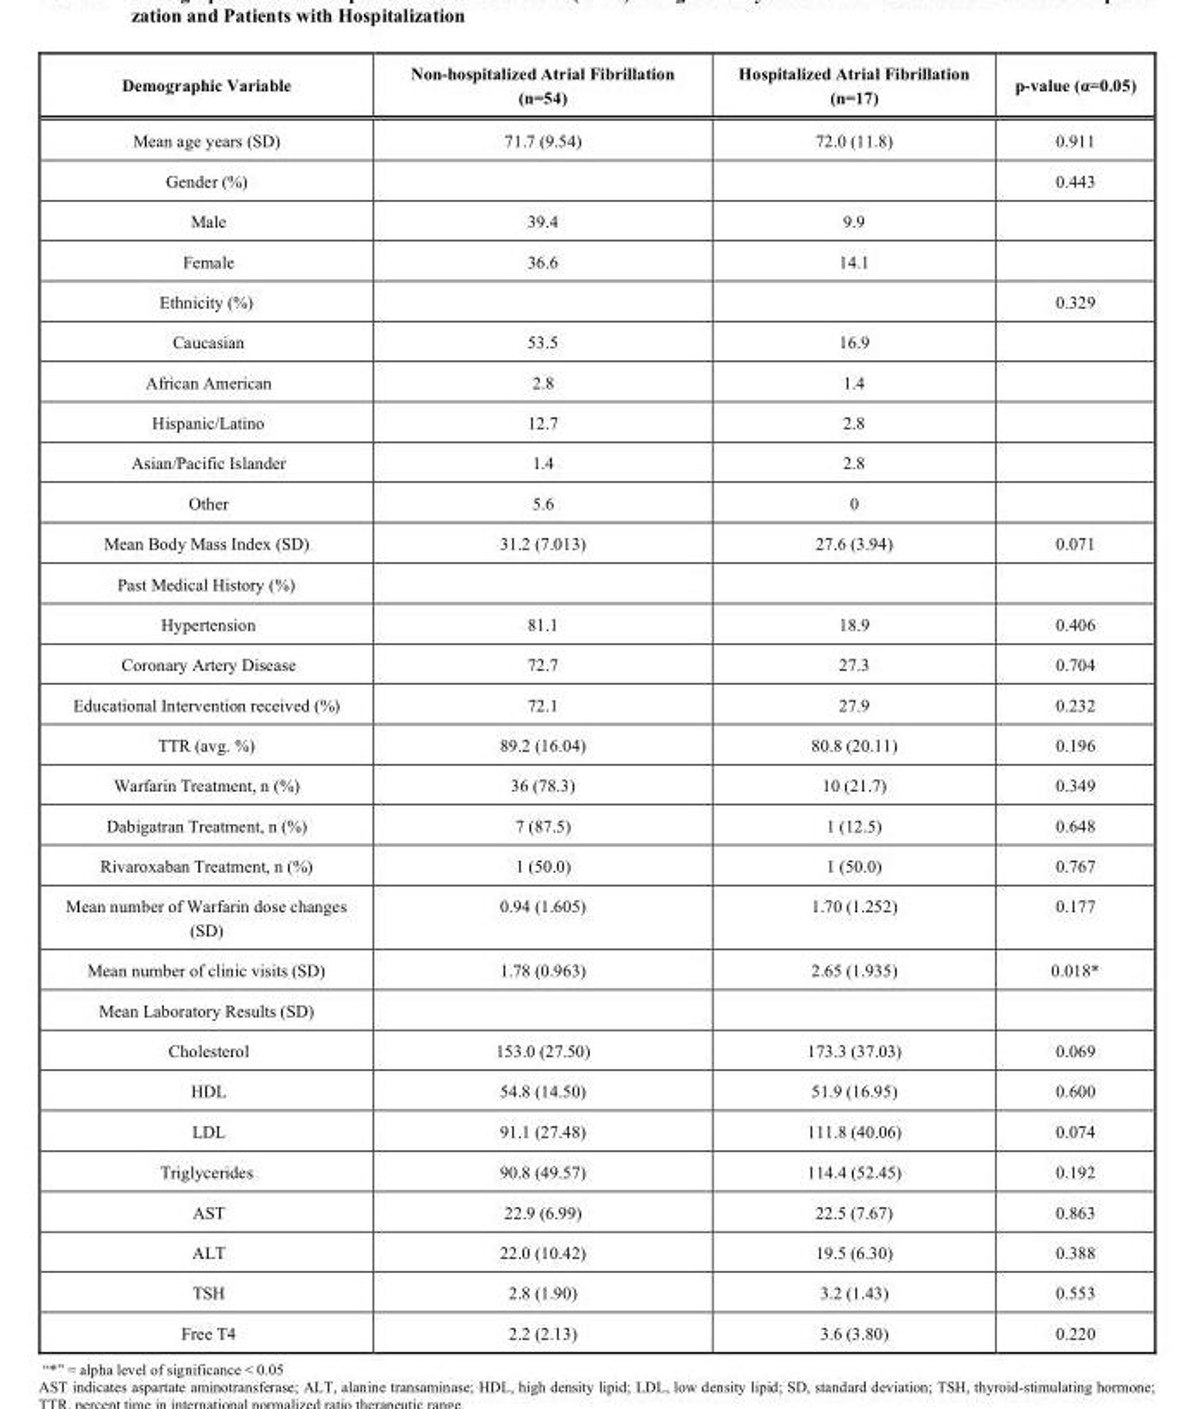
<table><thead><tr><td>Demographic Variable</td><td>Non-hospitalized Atrial Fibrillation (n=54)</td><td>Hospitalized Atrial Fibrillation (n=17)</td><td>p-value (α=0.05)</td></tr></thead><tbody><tr><td>Mean age years (SD)</td><td>71.7 (9.54)</td><td>72.0 (11.8)</td><td>0.911</td></tr><tr><td>Gender (%)</td><td></td><td></td><td>0.443</td></tr><tr><td>Male</td><td>39.4</td><td>9.9</td><td></td></tr><tr><td>Female</td><td>36.6</td><td>14.1</td><td></td></tr><tr><td>Ethnicity (%)</td><td></td><td></td><td>0.329</td></tr><tr><td>Caucasian</td><td>53.5</td><td>16.9</td><td></td></tr><tr><td>African American</td><td>2.8</td><td>1.4</td><td></td></tr><tr><td>Hispanic/Latino</td><td>12.7</td><td>2.8</td><td></td></tr><tr><td>Asian/Pacific Islander</td><td>1.4</td><td>2.8</td><td></td></tr><tr><td>Other</td><td>5.6</td><td>0</td><td></td></tr><tr><td>Mean Body Mass Index (SD)</td><td>31.2 (7.013)</td><td>27.6 (3.94)</td><td>0.071</td></tr><tr><td colspan="4">Past Medical History (%)</td></tr><tr><td>Hypertension</td><td>81.1</td><td>18.9</td><td>0.406</td></tr><tr><td>Coronary Artery Disease</td><td>72.7</td><td>27.3</td><td>0.704</td></tr><tr><td>Educational Intervention received (%)</td><td>72.1</td><td>27.9</td><td>0.232</td></tr><tr><td>TTR (avg. %)</td><td>89.2 (16.04)</td><td>80.8 (20.11)</td><td>0.196</td></tr><tr><td>Warfarin Treatment, n (%)</td><td>36 (78.3)</td><td>10 (21.7)</td><td>0.349</td></tr><tr><td>Dabigatran Treatment, n (%)</td><td>7 (87.5)</td><td>1 (12.5)</td><td>0.648</td></tr><tr><td>Rivaroxaban Treatment, n (%)</td><td>1 (50.0)</td><td>1 (50.0)</td><td>0.767</td></tr><tr><td>Mean number of Warfarin dose changes (SD)</td><td>0.94 (1.605)</td><td>1.70 (1.252)</td><td>0.177</td></tr><tr><td>Mean number of clinic visits (SD)</td><td>1.78 (0.963)</td><td>2.65 (1.935)</td><td>0.018*</td></tr><tr><td colspan="4">Mean Laboratory Results (SD)</td></tr><tr><td>Cholesterol</td><td>153.0 (27.50)</td><td>173.3 (37.03)</td><td>0.069</td></tr><tr><td>HDL</td><td>54.8 (14.50)</td><td>51.9 (16.95)</td><td>0.600</td></tr><tr><td>LDL</td><td>91.1 (27.48)</td><td>111.8 (40.06)</td><td>0.074</td></tr><tr><td>Triglycerides</td><td>90.8 (49.57)</td><td>114.4 (52.45)</td><td>0.192</td></tr><tr><td>AST</td><td>22.9 (6.99)</td><td>22.5 (7.67)</td><td>0.863</td></tr><tr><td>ALT</td><td>22.0 (10.42)</td><td>19.5 (6.30)</td><td>0.388</td></tr><tr><td>TSH</td><td>2.8 (1.90)</td><td>3.2 (1.43)</td><td>0.553</td></tr><tr><td>Free T4</td><td>2.2 (2.13)</td><td>3.6 (3.80)</td><td>0.220</td></tr></tbody></table>